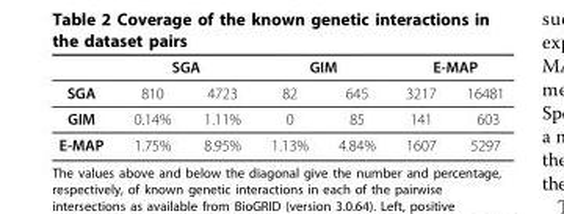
<table><thead><tr><td rowspan="2">SGA</td><td colspan="2">SGA</td><td colspan="2">GIM</td><td colspan="2">E-MAP</td></tr><tr><td>810</td><td>4723</td><td>82</td><td>645</td><td>3217</td><td>16481</td></tr></thead><tbody><tr><td>GIM</td><td>0.14%</td><td>1.11%</td><td>0</td><td>85</td><td>141</td><td>603</td></tr><tr><td>E-MAP</td><td>1.75%</td><td>8.95%</td><td>1.13%</td><td>4.84%</td><td>1607</td><td>5297</td></tr></tbody></table>